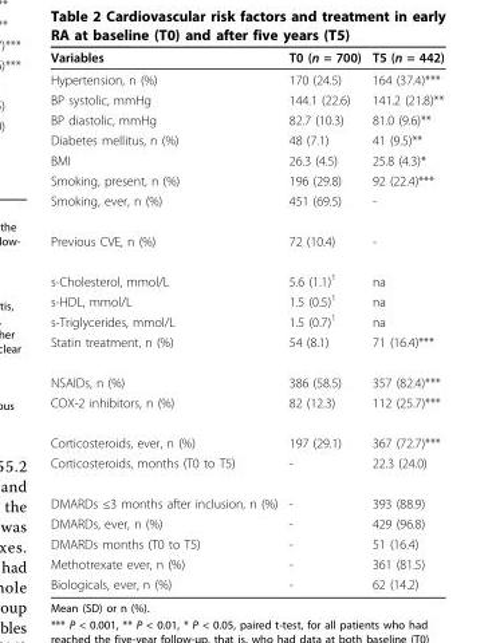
<table><thead><tr><td>Variables</td><td>T0 (n = 700)</td><td>T5 (n = 442)</td></tr></thead><tbody><tr><td>Hypertension, n (%)</td><td>170 (24.5)</td><td>164 (37.4)***</td></tr><tr><td>BP systolic, mmHg</td><td>144.1 (22.6)</td><td>141.2 (21.8)**</td></tr><tr><td>BP diastolic, mmHg</td><td>82.7 (10.3)</td><td>81.0 (9.6)**</td></tr><tr><td>Diabetes mellitus, n (%)</td><td>48 (7.1)</td><td>41 (9.5)**</td></tr><tr><td>BMI</td><td>26.3 (4.5)</td><td>25.8 (4.3)*</td></tr><tr><td>Smoking, present, n (%)</td><td>196 (29.8)</td><td>92 (22.4)***</td></tr><tr><td>Smoking, ever, n (%)</td><td>451 (69.5)</td><td>-</td></tr><tr><td>Previous CVE, n (%)</td><td>72 (10.4)</td><td>-</td></tr><tr><td>s-Cholesterol, mmol/L</td><td>5.6 (1.1)<sup>1</sup></td><td>na</td></tr><tr><td>s-HDL, mmol/L</td><td>1.5 (0.5)<sup>1</sup></td><td>na</td></tr><tr><td>s-Triglycerides, mmol/L</td><td>1.5 (0.7)<sup>1</sup></td><td>na</td></tr><tr><td>Statin treatment, n (%)</td><td>54 (8.1)</td><td>71 (16.4)***</td></tr><tr><td>NSAIDs, n (%)</td><td>386 (58.5)</td><td>357 (82.4)***</td></tr><tr><td>COX-2 inhibitors, n (%)</td><td>82 (12.3)</td><td>112 (25.7)***</td></tr><tr><td>Corticosteroids, ever, n (%)</td><td>197 (29.1)</td><td>367 (72.7)***</td></tr><tr><td>Corticosteroids, months (T0 to T5)</td><td>-</td><td>22.3 (24.0)</td></tr><tr><td>DMARDs ≤3 months after inclusion, n (%)</td><td>-</td><td>393 (88.9)</td></tr><tr><td>DMARDs, ever, n (%)</td><td>-</td><td>429 (96.8)</td></tr><tr><td>DMARDs months (T0 to T5)</td><td>-</td><td>51 (16.4)</td></tr><tr><td>Methotrexate ever, n (%)</td><td>-</td><td>361 (81.5)</td></tr><tr><td>Biologicals, ever, n (%)</td><td>-</td><td>62 (14.2)</td></tr></tbody></table>